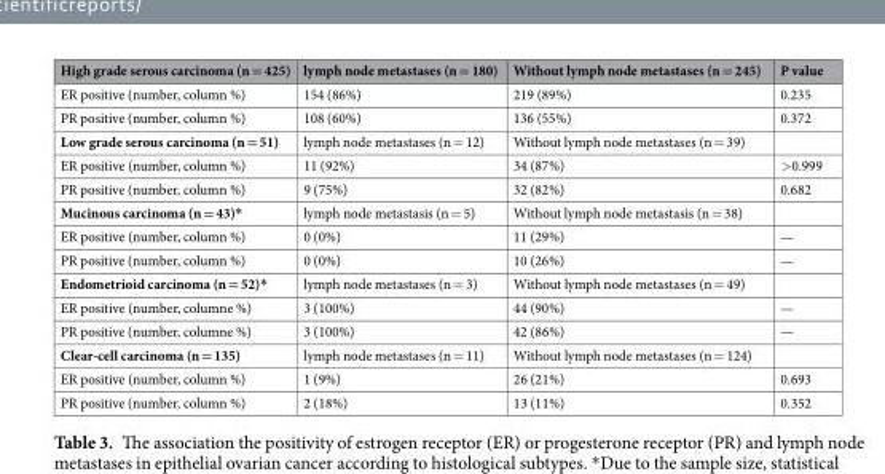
<table><thead><tr><td>High grade serous carcinoma (n = 425)</td><td>lymph node metastases (n = 180)</td><td>Without lymph node metastases (n = 245)</td><td>P value</td></tr></thead><tbody><tr><td>ER positive (number, column %)</td><td>154 (86%)</td><td>219 (89%)</td><td>0.235</td></tr><tr><td>PR positive (number, column %)</td><td>108 (60%)</td><td>136 (55%)</td><td>0.372</td></tr><tr><td>Low grade serous carcinoma (n = 51)</td><td>lymph node metastases (n = 12)</td><td>Without lymph node metastases (n = 39)</td><td></td></tr><tr><td>ER positive (number, column %)</td><td>11 (92%)</td><td>34 (87%)</td><td>&gt;0.999</td></tr><tr><td>PR positive (number, column %)</td><td>9 (75%)</td><td>32 (82%)</td><td>0.682</td></tr><tr><td>Mucinous carcinoma (n = 43)*</td><td>lymph node metastasis (n = 5)</td><td>Without lymph node metastasis (n = 38)</td><td></td></tr><tr><td>ER positive (number, column %)</td><td>0 (0%)</td><td>11 (29%)</td><td>—</td></tr><tr><td>PR positive (number, column %)</td><td>0 (0%)</td><td>10 (26%)</td><td>—</td></tr><tr><td>Endometrioid carcinoma (n = 52)*</td><td>lymph node metastases (n = 3)</td><td>Without lymph node metastases (n = 49)</td><td></td></tr><tr><td>ER positive (number, columne %)</td><td>3 (100%)</td><td>44 (90%)</td><td>—</td></tr><tr><td>PR positive (number, columne %)</td><td>3 (100%)</td><td>42 (86%)</td><td>—</td></tr><tr><td>Clear-cell carcinoma (n = 135)</td><td>lymph node metastases (n = 11)</td><td>Without lymph node metastases (n = 124)</td><td></td></tr><tr><td>ER positive (number, column %)</td><td>1 (9%)</td><td>26 (21%)</td><td>0.693</td></tr><tr><td>PR positive (number, column %)</td><td>2 (18%)</td><td>13 (11%)</td><td>0.352</td></tr></tbody></table>